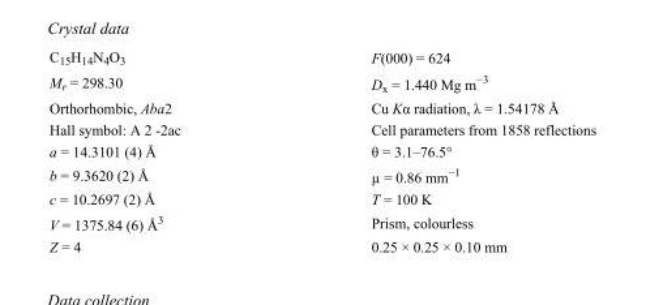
<table><tbody><tr><td>C<sub>15</sub>H<sub>14</sub>N<sub>4</sub>O<sub>3</sub></td><td>F(000) = 624</td></tr><tr><td>M<sub>r</sub> = 298.30</td><td>D<sub>x</sub> = 1.440 Mg m<sup>−3</sup></td></tr><tr><td>Orthorhombic, Aba2</td><td>Cu Kα radiation, λ = 1.54178 Å</td></tr><tr><td>Hall symbol: A 2 -2ac</td><td>Cell parameters from 1858 reflections</td></tr><tr><td>a = 14.3101 (4) Å</td><td>θ = 3.1–76.5°</td></tr><tr><td>b = 9.3620 (2) Å</td><td>µ = 0.86 mm<sup>−1</sup></td></tr><tr><td>c = 10.2697 (2) Å</td><td>T = 100 K</td></tr><tr><td>V = 1375.84 (6) Å<sup>3</sup></td><td>Prism, colourless</td></tr><tr><td>Z = 4</td><td>0.25 × 0.25 × 0.10 mm</td></tr></tbody></table>